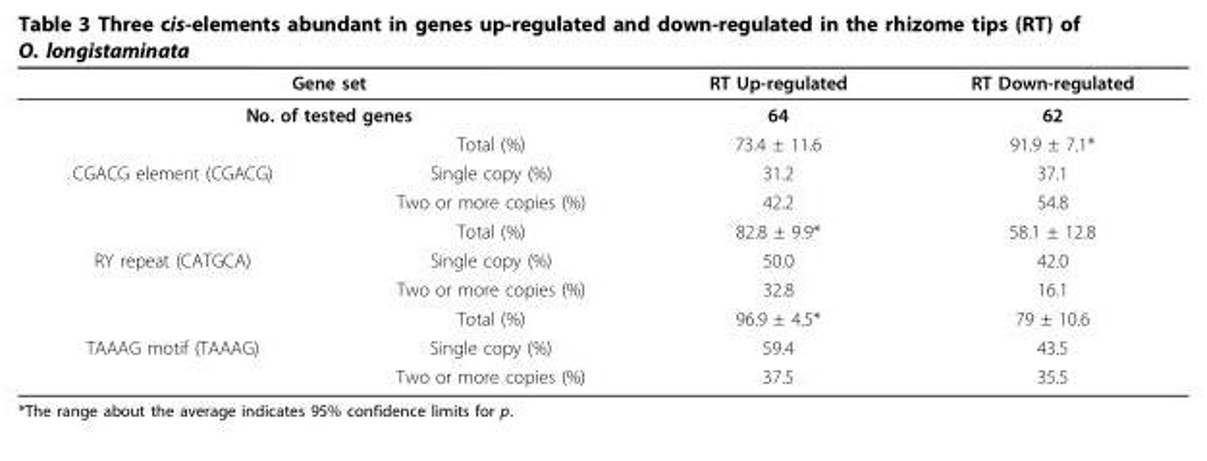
<table><thead><tr><td rowspan="2" colspan="2">Gene set No. of tested genes</td><td rowspan="3">RT Up-regulated 64 73.4 ± 11.6</td><td rowspan="3">RT Down-regulated 62 91.9 ± 7.1*</td></tr><tr></tr><tr><td></td><td>Total (%)</td></tr></thead><tbody><tr><td rowspan="3">CGACG element (CGACG)</td><td>Single copy (%)</td><td>31.2</td><td>37.1</td></tr><tr><td>Two or more copies (%)</td><td>42.2</td><td>54.8</td></tr><tr><td>Total (%)</td><td>82.8 ± 9.9*</td><td>58.1 ± 12.8</td></tr><tr><td rowspan="3">RY repeat (CATGCA)</td><td>Single copy (%)</td><td>50.0</td><td>42.0</td></tr><tr><td>Two or more copies (%)</td><td>32.8</td><td>16.1</td></tr><tr><td>Total (%)</td><td>96.9 ± 4.5*</td><td>79 ± 10.6</td></tr><tr><td rowspan="2">TAAAG motif (TAAAG)</td><td>Single copy (%)</td><td>59.4</td><td>43.5</td></tr><tr><td>Two or more copies (%)</td><td>37.5</td><td>35.5</td></tr></tbody></table>